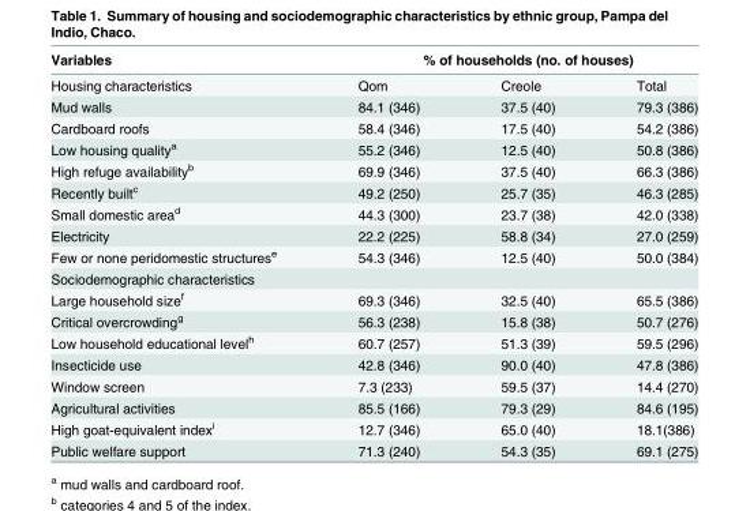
<table><thead><tr><td rowspan="2">Variables Housing characteristics</td><td colspan="3">% of households (no. of houses)</td></tr><tr><td>Qom</td><td>Creole</td><td>Total</td></tr></thead><tbody><tr><td>Mud walls</td><td>84.1 (346)</td><td>37.5 (40)</td><td>79.3 (386)</td></tr><tr><td>Cardboard roofs</td><td>58.4 (346)</td><td>17.5 (40)</td><td>54.2 (386)</td></tr><tr><td>Low housing quality<sup>a</sup></td><td>55.2 (346)</td><td>12.5 (40)</td><td>50.8 (386)</td></tr><tr><td>High refuge availability<sup>b</sup></td><td>69.9 (346)</td><td>37.5 (40)</td><td>66.3 (386)</td></tr><tr><td>Recently built<sup>c</sup></td><td>49.2 (250)</td><td>25.7 (35)</td><td>46.3 (285)</td></tr><tr><td>Small domestic area<sup>d</sup></td><td>44.3 (300)</td><td>23.7 (38)</td><td>42.0 (338)</td></tr><tr><td>Electricity</td><td>22.2 (225)</td><td>58.8 (34)</td><td>27.0 (259)</td></tr><tr><td>Few or none peridomestic structures<sup>e</sup></td><td>54.3 (346)</td><td>12.5 (40)</td><td>50.0 (384)</td></tr><tr><td colspan="4">Sociodemographic characteristics</td></tr><tr><td>Large household size<sup>f</sup></td><td>69.3 (346)</td><td>32.5 (40)</td><td>65.5 (386)</td></tr><tr><td>Critical overcrowding<sup>g</sup></td><td>56.3 (238)</td><td>15.8 (38)</td><td>50.7 (276)</td></tr><tr><td>Low household educational level<sup>h</sup></td><td>60.7 (257)</td><td>51.3 (39)</td><td>59.5 (296)</td></tr><tr><td>Insecticide use</td><td>42.8 (346)</td><td>90.0 (40)</td><td>47.8 (386)</td></tr><tr><td>Window screen</td><td>7.3 (233)</td><td>59.5 (37)</td><td>14.4 (270)</td></tr><tr><td>Agricultural activities</td><td>85.5 (166)</td><td>79.3 (29)</td><td>84.6 (195)</td></tr><tr><td>High goat-equivalent index<sup>i</sup></td><td>12.7 (346)</td><td>65.0 (40)</td><td>18.1(386)</td></tr><tr><td>Public welfare support</td><td>71.3 (240)</td><td>54.3 (35)</td><td>69.1 (275)</td></tr></tbody></table>